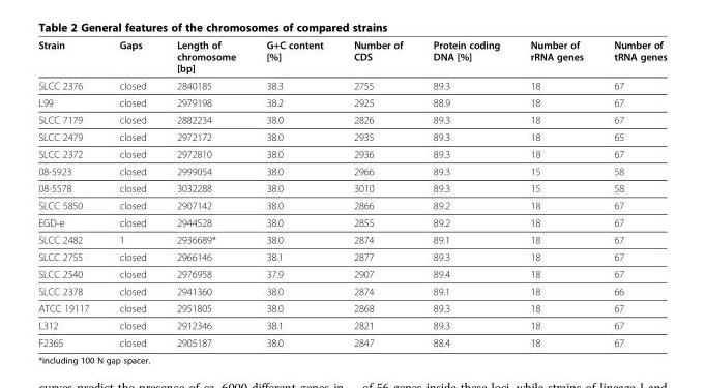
<table><thead><tr><td>Strain</td><td>Gaps</td><td>Length of chromosome [bp]</td><td>G+C content [%]</td><td>Number of CDS</td><td>Protein coding DNA [%]</td><td>Number of rRNA genes</td><td>Number of tRNA genes</td></tr></thead><tbody><tr><td>SLCC 2376</td><td>closed</td><td>2840185</td><td>38.3</td><td>2755</td><td>89.3</td><td>18</td><td>67</td></tr><tr><td>L99</td><td>closed</td><td>2979198</td><td>38.2</td><td>2925</td><td>88.9</td><td>18</td><td>67</td></tr><tr><td>SLCC 7179</td><td>closed</td><td>2882234</td><td>38.0</td><td>2826</td><td>89.3</td><td>18</td><td>67</td></tr><tr><td>SLCC 2479</td><td>closed</td><td>2972172</td><td>38.0</td><td>2935</td><td>89.3</td><td>18</td><td>65</td></tr><tr><td>SLCC 2372</td><td>closed</td><td>2972810</td><td>38.0</td><td>2936</td><td>89.3</td><td>18</td><td>67</td></tr><tr><td>08-5923</td><td>closed</td><td>2999054</td><td>38.0</td><td>2966</td><td>89.3</td><td>15</td><td>58</td></tr><tr><td>08-5578</td><td>closed</td><td>3032288</td><td>38.0</td><td>3010</td><td>89.3</td><td>15</td><td>58</td></tr><tr><td>SLCC 5850</td><td>closed</td><td>2907142</td><td>38.0</td><td>2866</td><td>89.2</td><td>18</td><td>67</td></tr><tr><td>EGD-e</td><td>closed</td><td>2944528</td><td>38.0</td><td>2855</td><td>89.2</td><td>18</td><td>67</td></tr><tr><td>SLCC 2482</td><td>1</td><td>2936689*</td><td>38.0</td><td>2874</td><td>89.1</td><td>18</td><td>67</td></tr><tr><td>SLCC 2755</td><td>closed</td><td>2966146</td><td>38.1</td><td>2877</td><td>89.3</td><td>18</td><td>67</td></tr><tr><td>SLCC 2540</td><td>closed</td><td>2976958</td><td>37.9</td><td>2907</td><td>89.4</td><td>18</td><td>67</td></tr><tr><td>SLCC 2378</td><td>closed</td><td>2941360</td><td>38.0</td><td>2874</td><td>89.1</td><td>18</td><td>66</td></tr><tr><td>ATCC 19117</td><td>closed</td><td>2951805</td><td>38.0</td><td>2868</td><td>89.3</td><td>18</td><td>67</td></tr><tr><td>L312</td><td>closed</td><td>2912346</td><td>38.1</td><td>2821</td><td>89.3</td><td>18</td><td>67</td></tr><tr><td>F2365</td><td>closed</td><td>2905187</td><td>38.0</td><td>2847</td><td>88.4</td><td>18</td><td>67</td></tr></tbody></table>